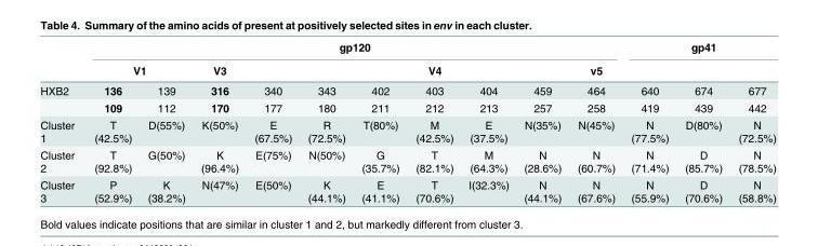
<table><thead><tr><td rowspan="3">HXB2</td><td colspan="10">gp120</td><td colspan="3">gp41</td></tr><tr><td colspan="2">V1</td><td rowspan="2">V3 316</td><td rowspan="2">340</td><td rowspan="2">343</td><td colspan="3">V4</td><td rowspan="2">459</td><td rowspan="2">v5 464</td><td rowspan="2">640</td><td rowspan="2">674</td><td rowspan="2">677</td></tr><tr><td>136</td><td>139</td><td>402</td><td>403</td><td>404</td></tr></thead><tbody><tr><td></td><td>109</td><td>112</td><td>170</td><td>177</td><td>180</td><td>211</td><td>212</td><td>213</td><td>257</td><td>258</td><td>419</td><td>439</td><td>442</td></tr><tr><td>Cluster 1</td><td>T (42.5%)</td><td>D(55%)</td><td>K(50%)</td><td>E (67.5%)</td><td>R (72.5%)</td><td>T(80%)</td><td>M (42.5%)</td><td>E (37.5%)</td><td>N(35%)</td><td>N(45%)</td><td>N (77.5%)</td><td>D(80%)</td><td>N (72.5%)</td></tr><tr><td>Cluster 2</td><td>T (92.8%)</td><td>G(50%)</td><td>K (96.4%)</td><td>E(75%)</td><td>N(50%)</td><td>G (35.7%)</td><td>T (82.1%)</td><td>M (64.3%)</td><td>N (28.6%)</td><td>N (60.7%)</td><td>N (71.4%)</td><td>D (85.7%)</td><td>N (78.5%)</td></tr><tr><td>Cluster 3</td><td>P (52.9%)</td><td>K (38.2%)</td><td>N(47%)</td><td>E(50%)</td><td>K (44.1%)</td><td>E (41.1%)</td><td>T (70.6%)</td><td>I(32.3%)</td><td>N (44.1%)</td><td>N (67.6%)</td><td>N (55.9%)</td><td>D (70.6%)</td><td>N (58.8%)</td></tr></tbody></table>